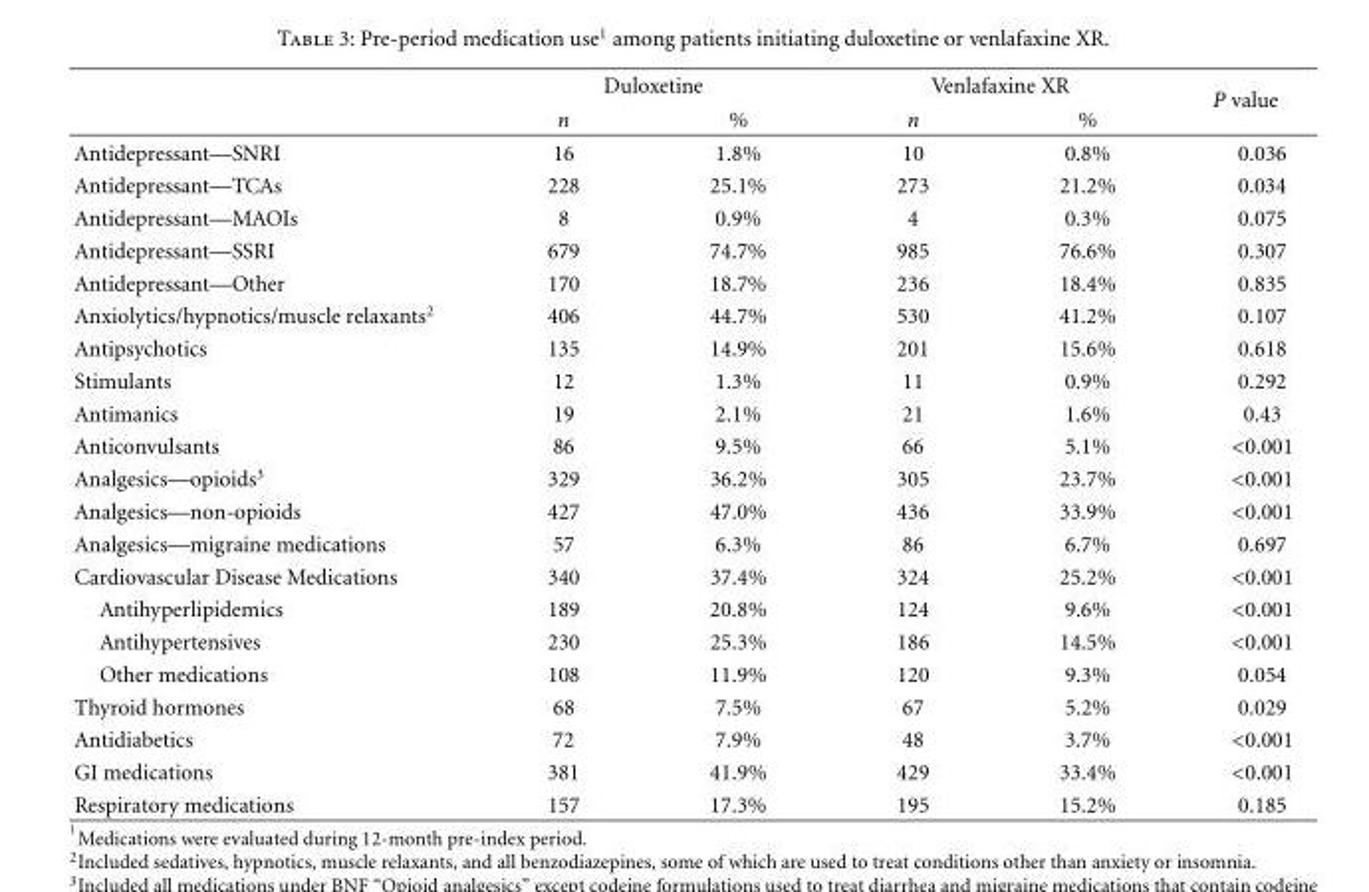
<table><thead><tr><td rowspan="2"></td><td colspan="2">Duloxetine</td><td colspan="2">Venlafaxine XR</td><td rowspan="2">P value</td></tr><tr><td>n</td><td>%</td><td>n</td><td>%</td></tr></thead><tbody><tr><td>Antidepressant—SNRI</td><td>16</td><td>1.8%</td><td>10</td><td>0.8%</td><td>0.036</td></tr><tr><td>Antidepressant—TCAs</td><td>228</td><td>25.1%</td><td>273</td><td>21.2%</td><td>0.034</td></tr><tr><td>Antidepressant—MAOIs</td><td>8</td><td>0.9%</td><td>4</td><td>0.3%</td><td>0.075</td></tr><tr><td>Antidepressant—SSRI</td><td>679</td><td>74.7%</td><td>985</td><td>76.6%</td><td>0.307</td></tr><tr><td>Antidepressant—Other</td><td>170</td><td>18.7%</td><td>236</td><td>18.4%</td><td>0.835</td></tr><tr><td>Anxiolytics/hypnotics/muscle relaxants<sup>2</sup></td><td>406</td><td>44.7%</td><td>530</td><td>41.2%</td><td>0.107</td></tr><tr><td>Antipsychotics</td><td>135</td><td>14.9%</td><td>201</td><td>15.6%</td><td>0.618</td></tr><tr><td>Stimulants</td><td>12</td><td>1.3%</td><td>11</td><td>0.9%</td><td>0.292</td></tr><tr><td>Antimanics</td><td>19</td><td>2.1%</td><td>21</td><td>1.6%</td><td>0.43</td></tr><tr><td>Anticonvulsants</td><td>86</td><td>9.5%</td><td>66</td><td>5.1%</td><td>&lt;0.001</td></tr><tr><td>Analgesics—opioids<sup>3</sup></td><td>329</td><td>36.2%</td><td>305</td><td>23.7%</td><td>&lt;0.001</td></tr><tr><td>Analgesics—non-opioids</td><td>427</td><td>47.0%</td><td>436</td><td>33.9%</td><td>&lt;0.001</td></tr><tr><td>Analgesics—migraine medications</td><td>57</td><td>6.3%</td><td>86</td><td>6.7%</td><td>0.697</td></tr><tr><td>Cardiovascular Disease Medications</td><td>340</td><td>37.4%</td><td>324</td><td>25.2%</td><td>&lt;0.001</td></tr><tr><td>Antihyperlipidemics</td><td>189</td><td>20.8%</td><td>124</td><td>9.6%</td><td>&lt;0.001</td></tr><tr><td>Antihypertensives</td><td>230</td><td>25.3%</td><td>186</td><td>14.5%</td><td>&lt;0.001</td></tr><tr><td>Other medications</td><td>108</td><td>11.9%</td><td>120</td><td>9.3%</td><td>0.054</td></tr><tr><td>Thyroid hormones</td><td>68</td><td>7.5%</td><td>67</td><td>5.2%</td><td>0.029</td></tr><tr><td>Antidiabetics</td><td>72</td><td>7.9%</td><td>48</td><td>3.7%</td><td>&lt;0.001</td></tr><tr><td>GI medications</td><td>381</td><td>41.9%</td><td>429</td><td>33.4%</td><td>&lt;0.001</td></tr><tr><td>Respiratory medications</td><td>157</td><td>17.3%</td><td>195</td><td>15.2%</td><td>0.185</td></tr></tbody></table>